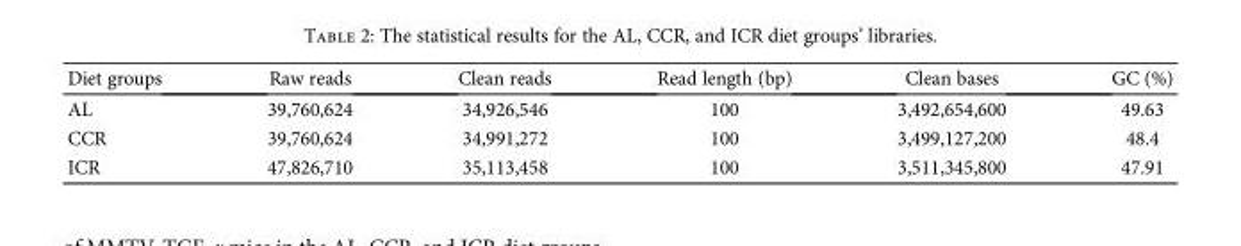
<table><thead><tr><td>Diet groups</td><td>Raw reads</td><td>Clean reads</td><td>Read length (bp)</td><td>Clean bases</td><td>GC (%)</td></tr></thead><tbody><tr><td>AL</td><td>39,760,624</td><td>34,926,546</td><td>100</td><td>3,492,654,600</td><td>49.63</td></tr><tr><td>CCR</td><td>39,760,624</td><td>34,991,272</td><td>100</td><td>3,499,127,200</td><td>48.4</td></tr><tr><td>ICR</td><td>47,826,710</td><td>35,113,458</td><td>100</td><td>3,511,345,800</td><td>47.91</td></tr></tbody></table>